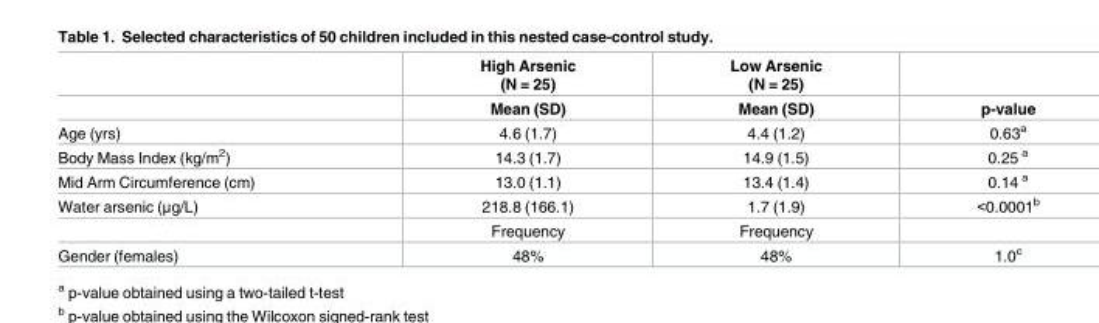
<table><thead><tr><td rowspan="2"></td><td rowspan="2">High Arsenic (N = 25) Mean (SD)</td><td rowspan="2">Low Arsenic (N = 25) Mean (SD)</td><td rowspan="2">p-value</td></tr><tr></tr></thead><tbody><tr><td>Age (yrs)</td><td>4.6 (1.7)</td><td>4.4 (1.2)</td><td>0.63<sup>a</sup></td></tr><tr><td>Body Mass Index (kg/m<sup>2</sup>)</td><td>14.3 (1.7)</td><td>14.9 (1.5)</td><td>0.25 <sup>a</sup></td></tr><tr><td>Mid Arm Circumference (cm)</td><td>13.0 (1.1)</td><td>13.4 (1.4)</td><td>0.14 <sup>a</sup></td></tr><tr><td rowspan="2">Water arsenic (μg/L)</td><td>218.8 (166.1)</td><td>1.7 (1.9)</td><td>&lt;0.0001<sup>b</sup></td></tr><tr><td>Frequency</td><td>Frequency</td><td></td></tr><tr><td>Gender (females)</td><td>48%</td><td>48%</td><td>1.0<sup>c</sup></td></tr></tbody></table>